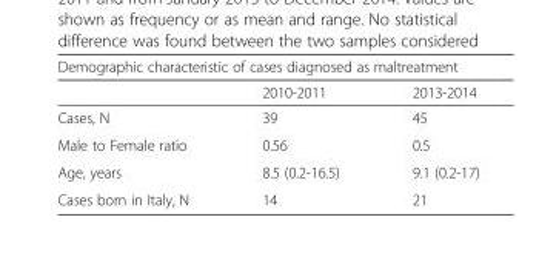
<table><thead><tr><td colspan="3">Demographic characteristic of cases diagnosed as maltreatment</td></tr><tr><td></td><td>2010-2011</td><td>2013-2014</td></tr></thead><tbody><tr><td>Cases, N</td><td>39</td><td>45</td></tr><tr><td>Male to Female ratio</td><td>0.56</td><td>0.5</td></tr><tr><td>Age, years</td><td>8.5 (0.2-16.5)</td><td>9.1 (0.2-17)</td></tr><tr><td>Cases born in Italy, N</td><td>14</td><td>21</td></tr></tbody></table>